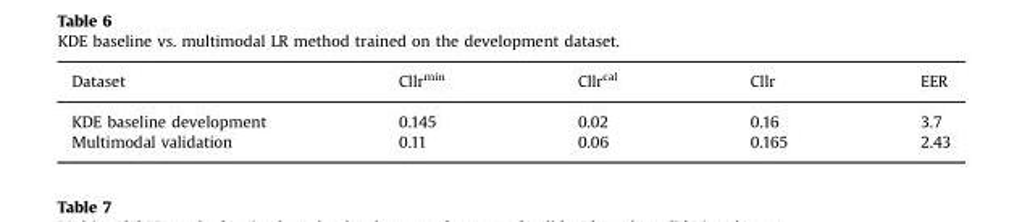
<table><thead><tr><td>Dataset</td><td>Cllr<sup>min</sup></td><td>Cllr<sup>cal</sup></td><td>Cllr</td><td>EER</td></tr></thead><tbody><tr><td>KDE baseline development</td><td>0.145</td><td>0.02</td><td>0.16</td><td>3.7</td></tr><tr><td>Multimodal validation</td><td>0.11</td><td>0.06</td><td>0.165</td><td>2.43</td></tr></tbody></table>